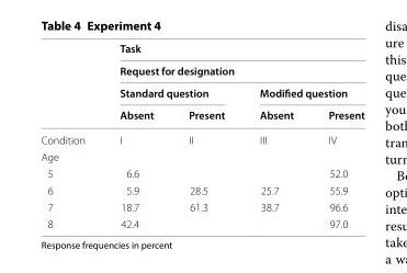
<table><thead><tr><td rowspan="4"></td><td rowspan="2" colspan="4">Task Request for designation</td></tr><tr></tr><tr><td colspan="2">Standard question</td><td colspan="2">Modified question</td></tr><tr><td>Absent</td><td>Present</td><td>Absent</td><td>Present</td></tr></thead><tbody><tr><td>Condition</td><td>I</td><td>II</td><td>III</td><td>IV</td></tr><tr><td colspan="5">Age</td></tr><tr><td>5</td><td>6.6</td><td></td><td></td><td>52.0</td></tr><tr><td>6</td><td>5.9</td><td>28.5</td><td>25.7</td><td>55.9</td></tr><tr><td>7</td><td>18.7</td><td>61.3</td><td>38.7</td><td>96.6</td></tr><tr><td>8</td><td>42.4</td><td></td><td></td><td>97.0</td></tr></tbody></table>